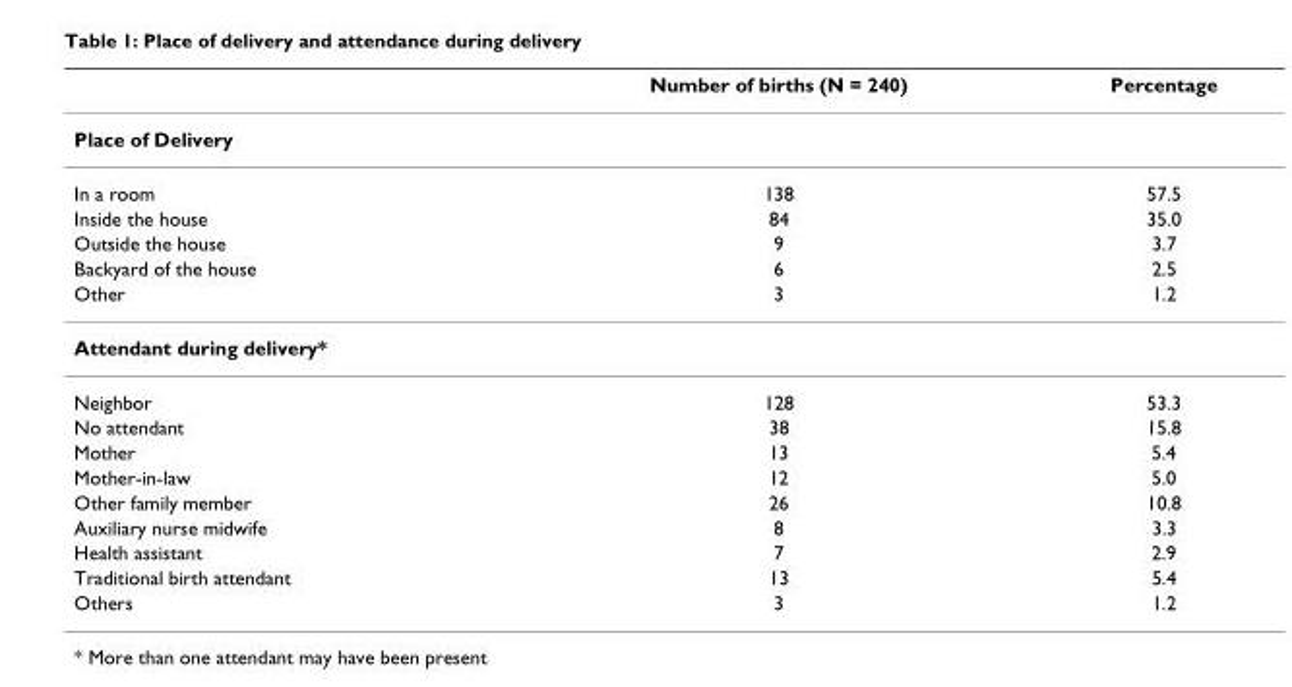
<table><thead><tr><td></td><td>Number of births (N = 240)</td><td>Percentage</td></tr></thead><tbody><tr><td colspan="3">Place of Delivery</td></tr><tr><td>In a room</td><td>138</td><td>57.5</td></tr><tr><td>Inside the house</td><td>84</td><td>35.0</td></tr><tr><td>Outside the house</td><td>9</td><td>3.7</td></tr><tr><td>Backyard of the house</td><td>6</td><td>2.5</td></tr><tr><td>Other</td><td>3</td><td>1.2</td></tr><tr><td colspan="3">Attendant during delivery*</td></tr><tr><td>Neighbor</td><td>128</td><td>53.3</td></tr><tr><td>No attendant</td><td>38</td><td>15.8</td></tr><tr><td>Mother</td><td>13</td><td>5.4</td></tr><tr><td>Mother-in-law</td><td>12</td><td>5.0</td></tr><tr><td>Other family member</td><td>26</td><td>10.8</td></tr><tr><td>Auxiliary nurse midwife</td><td>8</td><td>3.3</td></tr><tr><td>Health assistant</td><td>7</td><td>2.9</td></tr><tr><td>Traditional birth attendant</td><td>13</td><td>5.4</td></tr><tr><td>Others</td><td>3</td><td>1.2</td></tr></tbody></table>